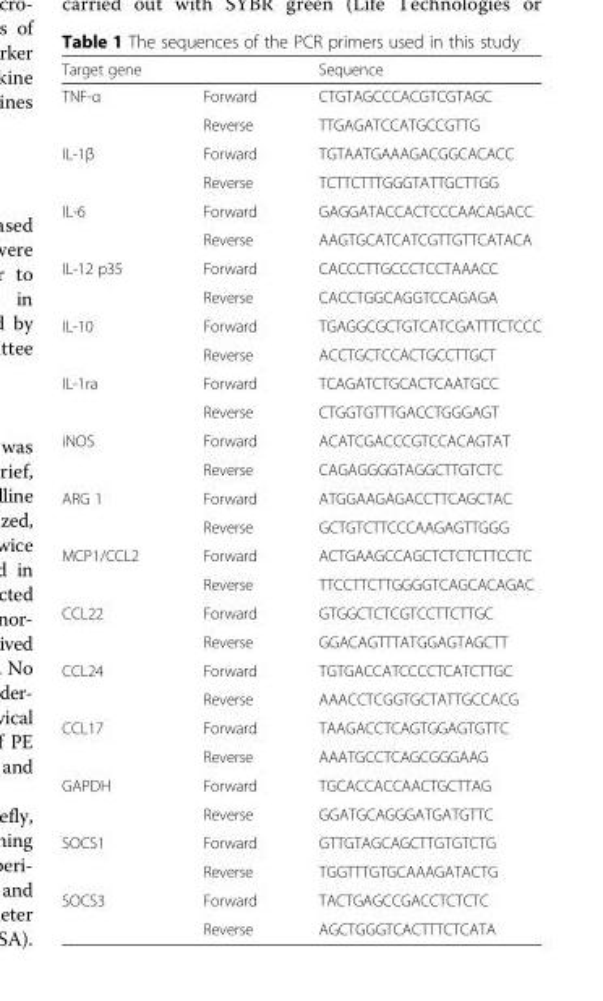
<table><thead><tr><td>Target gene</td><td></td><td>Sequence</td></tr></thead><tbody><tr><td rowspan="2">TNF-α</td><td>Forward</td><td>CTGTAGCCCACGTCGTAGC</td></tr><tr><td>Reverse</td><td>TTGAGATCCATGCCGTTG</td></tr><tr><td rowspan="2">IL-1β</td><td>Forward</td><td>TGTAATGAAAGACGGCACACC</td></tr><tr><td>Reverse</td><td>TCTTCTTTGGGTATTGCTTGG</td></tr><tr><td rowspan="2">IL-6</td><td>Forward</td><td>GAGGATACCACTCCCAACAGACC</td></tr><tr><td>Reverse</td><td>AAGTGCATCATCGTTGTTCATACA</td></tr><tr><td rowspan="2">IL-12 p35</td><td>Forward</td><td>CACCCTTGCCCTCCTAAACC</td></tr><tr><td>Reverse</td><td>CACCTGGCAGGTCCAGAGA</td></tr><tr><td rowspan="2">IL-10</td><td>Forward</td><td>TGAGGCGCTGTCATCGATTTCTCCC</td></tr><tr><td>Reverse</td><td>ACCTGCTCCACTGCCTTGCT</td></tr><tr><td rowspan="2">IL-1ra</td><td>Forward</td><td>TCAGATCTGCACTCAATGCC</td></tr><tr><td>Reverse</td><td>CTGGTGTTTGACCTGGGAGT</td></tr><tr><td rowspan="2">iNOS</td><td>Forward</td><td>ACATCGACCCGTCCACAGTAT</td></tr><tr><td>Reverse</td><td>CAGAGGGGTAGGCTTGTCTC</td></tr><tr><td rowspan="2">ARG 1</td><td>Forward</td><td>ATGGAAGAGACCTTCAGCTAC</td></tr><tr><td>Reverse</td><td>GCTGTCTTCCCAAGAGTTGGG</td></tr><tr><td rowspan="2">MCP1/CCL2</td><td>Forward</td><td>ACTGAAGCCAGCTCTCTCTTCCTC</td></tr><tr><td>Reverse</td><td>TTCCTTCTTGGGGTCAGCACAGAC</td></tr><tr><td rowspan="2">CCL22</td><td>Forward</td><td>GTGGCTCTCGTCCTTCTTGC</td></tr><tr><td>Reverse</td><td>GGACAGTTTATGGAGTAGCTT</td></tr><tr><td rowspan="2">CCL24</td><td>Forward</td><td>TGTGACCATCCCCTCATCTTGC</td></tr><tr><td>Reverse</td><td>AAACCTCGGTGCTATTGCCACG</td></tr><tr><td rowspan="2">CCL17</td><td>Forward</td><td>TAAGACCTCAGTGGAGTGTTC</td></tr><tr><td>Reverse</td><td>AAATGCCTCAGCGGGAAG</td></tr><tr><td rowspan="2">GAPDH</td><td>Forward</td><td>TGCACCACCAACTGCTTAG</td></tr><tr><td>Reverse</td><td>GGATGCAGGGATGATGTTC</td></tr><tr><td rowspan="2">SOCS1</td><td>Forward</td><td>GTTGTAGCAGCTTGTGTCTG</td></tr><tr><td>Reverse</td><td>TGGTTTGTGCAAAGATACTG</td></tr><tr><td rowspan="2">SOCS3</td><td>Forward</td><td>TACTGAGCCGACCTCTCTC</td></tr><tr><td>Reverse</td><td>AGCTGGGTCACTTTCTCATA</td></tr></tbody></table>